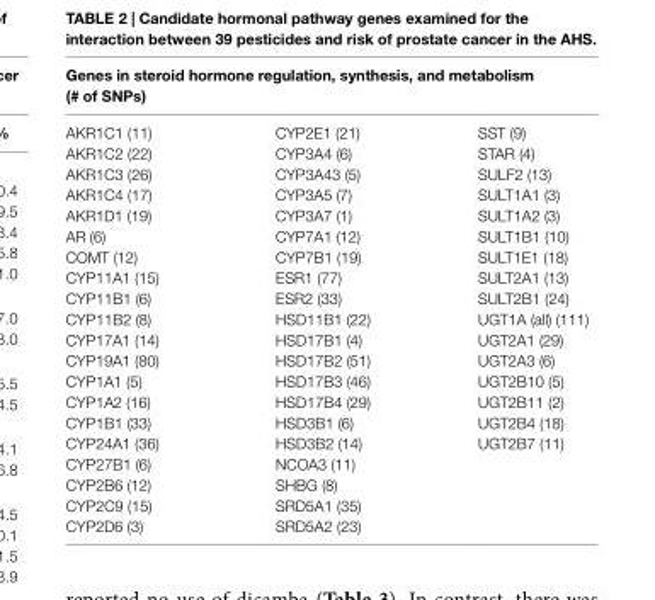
<table><thead><tr><td colspan="3">genes in steroid hormone regulation, synthesis, and metabolism (# of snPs)</td></tr><tr><td>AKR1C1 (11)</td><td>CYP2E1 (21)</td><td>SST (9)</td></tr></thead><tbody><tr><td>AKR1C2 (22)</td><td>CYP3A4 (6)</td><td>STAR (4)</td></tr><tr><td>AKR1C3 (26)</td><td>CYP3A43 (5)</td><td>SULF2 (13)</td></tr><tr><td>AKR1C4 (17)</td><td>CYP3A5 (7)</td><td>SULT1A1 (3)</td></tr><tr><td>AKR1D1 (19)</td><td>CYP3A7 (1)</td><td>SULT1A2 (3)</td></tr><tr><td>AR (6)</td><td>CYP7A1 (12)</td><td>SULT1B1 (10)</td></tr><tr><td>COMT (12)</td><td>CYP7B1 (19)</td><td>SULT1E1 (18)</td></tr><tr><td>CYP11A1 (15)</td><td>ESR1 (77)</td><td>SULT2A1 (13)</td></tr><tr><td>CYP11B1 (6)</td><td>ESR2 (33)</td><td>SULT2B1 (24)</td></tr><tr><td>CYP11B2 (8)</td><td>HSD11B1 (22)</td><td>UGT1A (all) (111)</td></tr><tr><td>CYP17A1 (14)</td><td>HSD17B1 (4)</td><td>UGT2A1 (29)</td></tr><tr><td>CYP19A1 (80)</td><td>HSD17B2 (51)</td><td>UGT2A3 (6)</td></tr><tr><td>CYP1A1 (5)</td><td>HSD17B3 (46)</td><td>UGT2B10 (5)</td></tr><tr><td>CYP1A2 (16)</td><td>HSD17B4 (29)</td><td>UGT2B11 (2)</td></tr><tr><td>CYP1B1 (33)</td><td>HSD3B1 (6)</td><td>UGT2B4 (18)</td></tr><tr><td>CYP24A1 (36)</td><td>HSD3B2 (14)</td><td>UGT2B7 (11)</td></tr><tr><td>CYP27B1 (6)</td><td>NCOA3 (11)</td><td></td></tr><tr><td>CYP2B6 (12)</td><td>SHBG (8)</td><td></td></tr><tr><td>CYP2C9 (15)</td><td>SRD5A1 (35)</td><td></td></tr><tr><td>CYP2D6 (3)</td><td>SRD5A2 (23)</td><td></td></tr></tbody></table>